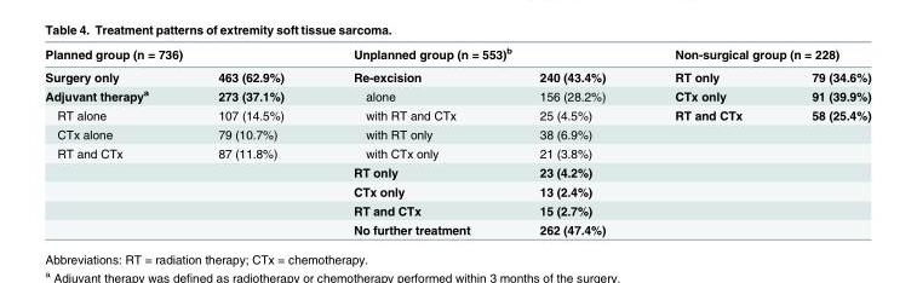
<table><thead><tr><td colspan="2">Planned group (n = 736)</td><td colspan="2">Unplanned group (n = 553)<sup>b</sup></td><td colspan="2">Non-surgical group (n = 228)</td></tr><tr><td>Surgery only</td><td>463 (62.9%)</td><td>Re-excision</td><td>240 (43.4%)</td><td>RT only</td><td>79 (34.6%)</td></tr></thead><tbody><tr><td>Adjuvant therapy<sup>a</sup></td><td>273 (37.1%)</td><td>alone</td><td>156 (28.2%)</td><td>CTx only</td><td>91 (39.9%)</td></tr><tr><td>RT alone</td><td>107 (14.5%)</td><td>with RT and CTx</td><td>25 (4.5%)</td><td>RT and CTx</td><td>58 (25.4%)</td></tr><tr><td>CTx alone</td><td>79 (10.7%)</td><td>with RT only</td><td>38 (6.9%)</td><td></td><td></td></tr><tr><td rowspan="5">RT and CTx</td><td>87 (11.8%)</td><td>with CTx only</td><td>21 (3.8%)</td><td></td><td></td></tr><tr><td></td><td>RT only</td><td>23 (4.2%)</td><td></td><td></td></tr><tr><td></td><td>CTx only</td><td>13 (2.4%)</td><td></td><td></td></tr><tr><td></td><td>RT and CTx</td><td>15 (2.7%)</td><td></td><td></td></tr><tr><td></td><td>No further treatment</td><td>262 (47.4%)</td><td></td><td></td></tr></tbody></table>